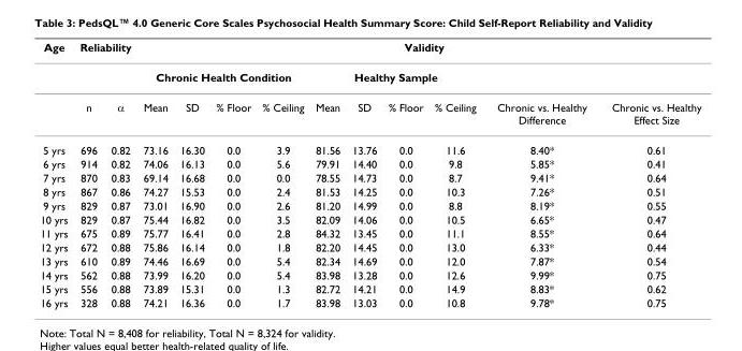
<table><thead><tr><td rowspan="3">Age</td><td colspan="2">Reliability</td><td colspan="10">Validity</td></tr><tr><td rowspan="2">n</td><td rowspan="2">α</td><td colspan="4">Chronic Health Condition</td><td colspan="4">Healthy Sample</td><td rowspan="2">Chronic vs. Healthy Difference</td><td rowspan="2">Chronic vs. Healthy Effect Size</td></tr><tr><td>Mean</td><td>SD</td><td>% Floor</td><td>% Ceiling</td><td>Mean</td><td>SD</td><td>% Floor</td><td>% Ceiling</td></tr></thead><tbody><tr><td>5 yrs</td><td>696</td><td>0.82</td><td>73.16</td><td>16.30</td><td>0.0</td><td>3.9</td><td>81.56</td><td>13.76</td><td>0.0</td><td>11.6</td><td>8.40*</td><td>0.61</td></tr><tr><td>6 yrs</td><td>914</td><td>0.82</td><td>74.06</td><td>16.13</td><td>0.0</td><td>5.6</td><td>79.91</td><td>14.40</td><td>0.0</td><td>9.8</td><td>5.85*</td><td>0.41</td></tr><tr><td>7 yrs</td><td>870</td><td>0.83</td><td>69.14</td><td>16.68</td><td>0.0</td><td>0.0</td><td>78.55</td><td>14.73</td><td>0.0</td><td>8.7</td><td>9.41*</td><td>0.64</td></tr><tr><td>8 yrs</td><td>867</td><td>0.86</td><td>74.27</td><td>15.53</td><td>0.0</td><td>2.4</td><td>81.53</td><td>14.25</td><td>0.0</td><td>10.3</td><td>7.26*</td><td>0.51</td></tr><tr><td>9 yrs</td><td>829</td><td>0.87</td><td>73.01</td><td>16.90</td><td>0.0</td><td>2.6</td><td>81.20</td><td>14.99</td><td>0.0</td><td>8.8</td><td>8.19*</td><td>0.55</td></tr><tr><td>10 yrs</td><td>829</td><td>0.87</td><td>75.44</td><td>16.82</td><td>0.0</td><td>3.5</td><td>82.09</td><td>14.06</td><td>0.0</td><td>10.5</td><td>6.65*</td><td>0.47</td></tr><tr><td>11 yrs</td><td>675</td><td>0.89</td><td>75.77</td><td>16.41</td><td>0.0</td><td>2.8</td><td>84.32</td><td>13.45</td><td>0.0</td><td>11.1</td><td>8.55*</td><td>0.64</td></tr><tr><td>12 yrs</td><td>672</td><td>0.88</td><td>75.86</td><td>16.14</td><td>0.0</td><td>1.8</td><td>82.20</td><td>14.45</td><td>0.0</td><td>13.0</td><td>6.33*</td><td>0.44</td></tr><tr><td>13 yrs</td><td>610</td><td>0.89</td><td>74.46</td><td>16.69</td><td>0.0</td><td>5.4</td><td>82.34</td><td>14.69</td><td>0.0</td><td>12.0</td><td>7.87*</td><td>0.54</td></tr><tr><td>14 yrs</td><td>562</td><td>0.88</td><td>73.99</td><td>16.20</td><td>0.0</td><td>5.4</td><td>83.98</td><td>13.28</td><td>0.0</td><td>12.6</td><td>9.99*</td><td>0.75</td></tr><tr><td>15 yrs</td><td>556</td><td>0.88</td><td>73.89</td><td>15.31</td><td>0.0</td><td>1.3</td><td>82.72</td><td>14.21</td><td>0.0</td><td>14.9</td><td>8.83*</td><td>0.62</td></tr><tr><td>16 yrs</td><td>328</td><td>0.88</td><td>74.21</td><td>16.36</td><td>0.0</td><td>1.7</td><td>83.98</td><td>13.03</td><td>0.0</td><td>10.8</td><td>9.78*</td><td>0.75</td></tr></tbody></table>